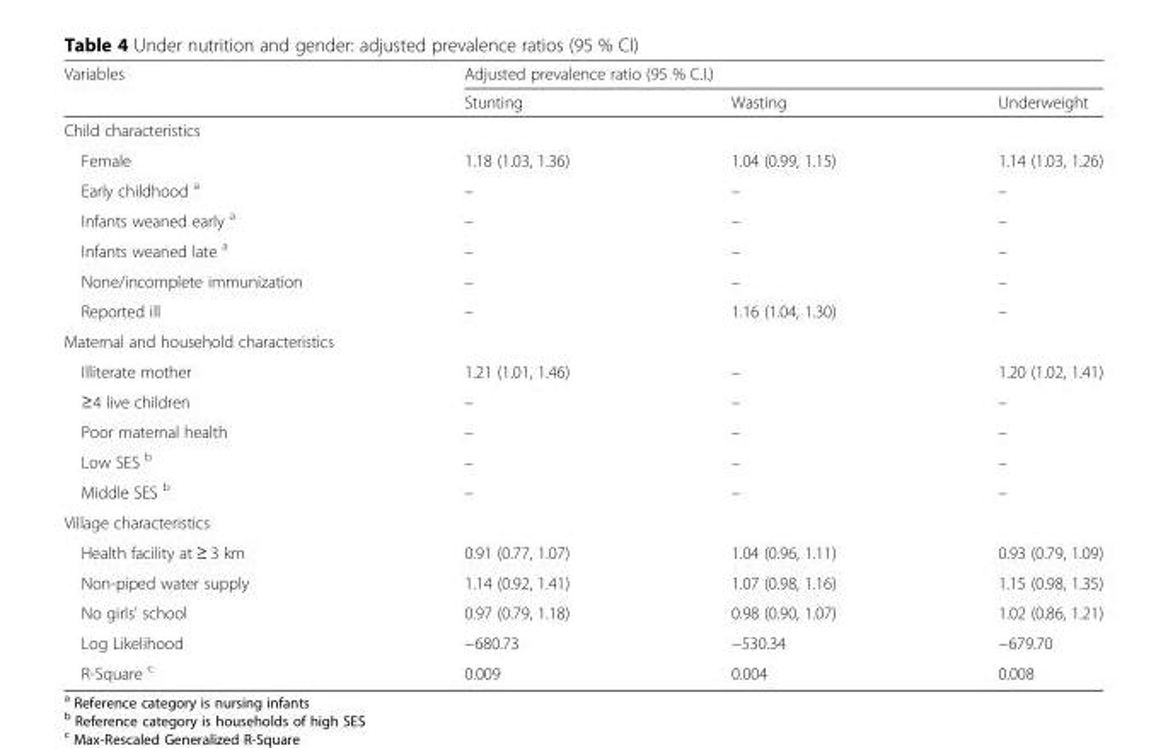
<table><thead><tr><td rowspan="2">Variables</td><td colspan="3">Adjusted prevalence ratio (95 % C.I.)</td></tr><tr><td>Stunting</td><td>Wasting</td><td>Underweight</td></tr></thead><tbody><tr><td colspan="4">Child characteristics</td></tr><tr><td>Female</td><td>1.18 (1.03, 1.36)</td><td>1.04 (0.99, 1.15)</td><td>1.14 (1.03, 1.26)</td></tr><tr><td>Early childhood <sup>a</sup></td><td>–</td><td>–</td><td>–</td></tr><tr><td>Infants weaned early <sup>a</sup></td><td>–</td><td>–</td><td>–</td></tr><tr><td>Infants weaned late <sup>a</sup></td><td>–</td><td>–</td><td>–</td></tr><tr><td>None/incomplete immunization</td><td>–</td><td>–</td><td>–</td></tr><tr><td>Reported ill</td><td>–</td><td>1.16 (1.04, 1.30)</td><td>–</td></tr><tr><td colspan="4">Maternal and household characteristics</td></tr><tr><td>Illiterate mother</td><td>1.21 (1.01, 1.46)</td><td>–</td><td>1.20 (1.02, 1.41)</td></tr><tr><td>≥4 live children</td><td>–</td><td>–</td><td>–</td></tr><tr><td>Poor maternal health</td><td>–</td><td>–</td><td>–</td></tr><tr><td>Low SES <sup>b</sup></td><td>–</td><td>–</td><td>–</td></tr><tr><td>Middle SES <sup>b</sup></td><td>–</td><td>–</td><td>–</td></tr><tr><td colspan="4">Village characteristics</td></tr><tr><td>Health facility at ≥ 3 km</td><td>0.91 (0.77, 1.07)</td><td>1.04 (0.96, 1.11)</td><td>0.93 (0.79, 1.09)</td></tr><tr><td>Non-piped water supply</td><td>1.14 (0.92, 1.41)</td><td>1.07 (0.98, 1.16)</td><td>1.15 (0.98, 1.35)</td></tr><tr><td>No girls’ school</td><td>0.97 (0.79, 1.18)</td><td>0.98 (0.90, 1.07)</td><td>1.02 (0.86, 1.21)</td></tr><tr><td>Log Likelihood</td><td>−680.73</td><td>−530.34</td><td>−679.70</td></tr><tr><td>R-Square <sup>c</sup></td><td>0.009</td><td>0.004</td><td>0.008</td></tr></tbody></table>